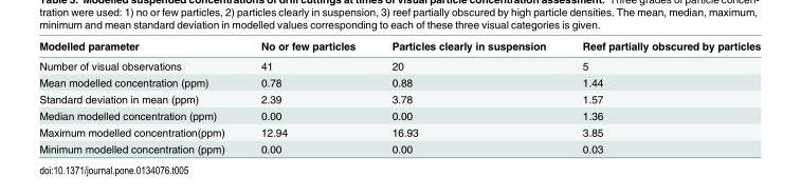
<table><thead><tr><td>Modelled parameter</td><td>No or few particles</td><td>Particles clearly in suspension</td><td>Reef partially obscured by particles</td></tr></thead><tbody><tr><td>Number of visual observations</td><td>41</td><td>20</td><td>5</td></tr><tr><td>Mean modelled concentration (ppm)</td><td>0.78</td><td>0.88</td><td>1.44</td></tr><tr><td>Standard deviation in mean (ppm)</td><td>2.39</td><td>3.78</td><td>1.57</td></tr><tr><td>Median modelled concentration (ppm)</td><td>0.00</td><td>0.00</td><td>1.36</td></tr><tr><td>Maximum modelled concentration(ppm)</td><td>12.94</td><td>16.93</td><td>3.85</td></tr><tr><td>Minimum modelled concentration (ppm)</td><td>0.00</td><td>0.00</td><td>0.03</td></tr></tbody></table>